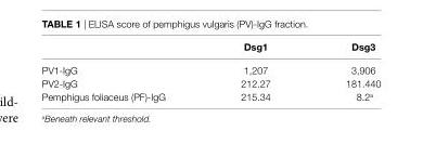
<table><thead><tr><td></td><td>Dsg1</td><td>Dsg3</td></tr></thead><tbody><tr><td>PV1-IgG</td><td>1,207</td><td>3,906</td></tr><tr><td>PV2-IgG</td><td>212.27</td><td>181.440</td></tr><tr><td>Pemphigus foliaceus (PF)-IgG</td><td>215.34</td><td>8.2<sup>a</sup></td></tr></tbody></table>